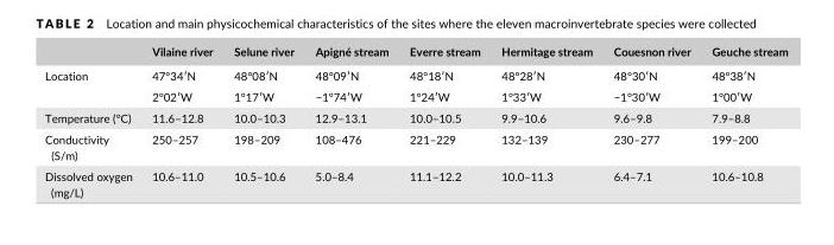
<table><thead><tr><td></td><td>Vilaine river</td><td>Selune river</td><td>Apigné stream</td><td>Everre stream</td><td>Hermitage stream</td><td>Couesnon river</td><td>Geuche stream</td></tr></thead><tbody><tr><td rowspan="2">Location</td><td>47°34′N</td><td>48°08′N</td><td>48°09′N</td><td>48°18′N</td><td>48°28′N</td><td>48°30′N</td><td>48°38′N</td></tr><tr><td>2°02′W</td><td>1°17′W</td><td>−1°74′W</td><td>1°24′W</td><td>1°33′W</td><td>−1°30′W</td><td>1°00′W</td></tr><tr><td>Temperature (°C)</td><td>11.6–12.8</td><td>10.0–10.3</td><td>12.9–13.1</td><td>10.0–10.5</td><td>9.9–10.6</td><td>9.6–9.8</td><td>7.9–8.8</td></tr><tr><td>Conductivity (S/m)</td><td>250–257</td><td>198–209</td><td>108–476</td><td>221–229</td><td>132–139</td><td>230–277</td><td>199–200</td></tr><tr><td>Dissolved oxygen (mg/L)</td><td>10.6–11.0</td><td>10.5–10.6</td><td>5.0–8.4</td><td>11.1–12.2</td><td>10.0–11.3</td><td>6.4–7.1</td><td>10.6–10.8</td></tr></tbody></table>